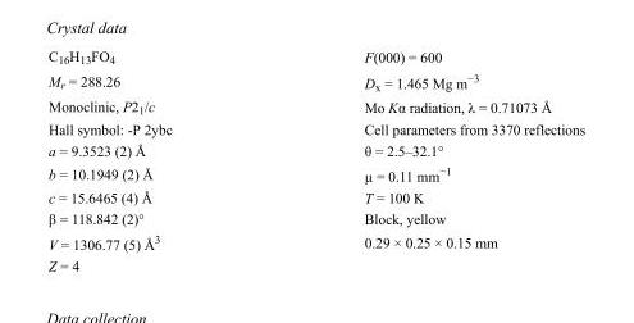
<table><tbody><tr><td>C<sub>16</sub>H<sub>13</sub>FO<sub>4</sub></td><td>F(000) = 600</td></tr><tr><td>M<sub>r</sub> = 288.26</td><td>D<sub>x</sub> = 1.465 Mg m<sup>−3</sup></td></tr><tr><td>Monoclinic, P2<sub>1</sub>/c</td><td>Mo Kα radiation, λ = 0.71073 Å</td></tr><tr><td>Hall symbol: -P 2ybc</td><td>Cell parameters from 3370 reflections</td></tr><tr><td>a = 9.3523 (2) Å</td><td>θ = 2.5–32.1°</td></tr><tr><td>b = 10.1949 (2) Å</td><td>µ = 0.11 mm<sup>−1</sup></td></tr><tr><td>c = 15.6465 (4) Å</td><td>T = 100 K</td></tr><tr><td>β = 118.842 (2)°</td><td>Block, yellow</td></tr><tr><td>V = 1306.77 (5) Å<sup>3</sup></td><td>0.29 × 0.25 × 0.15 mm</td></tr><tr><td>Z = 4</td><td></td></tr></tbody></table>